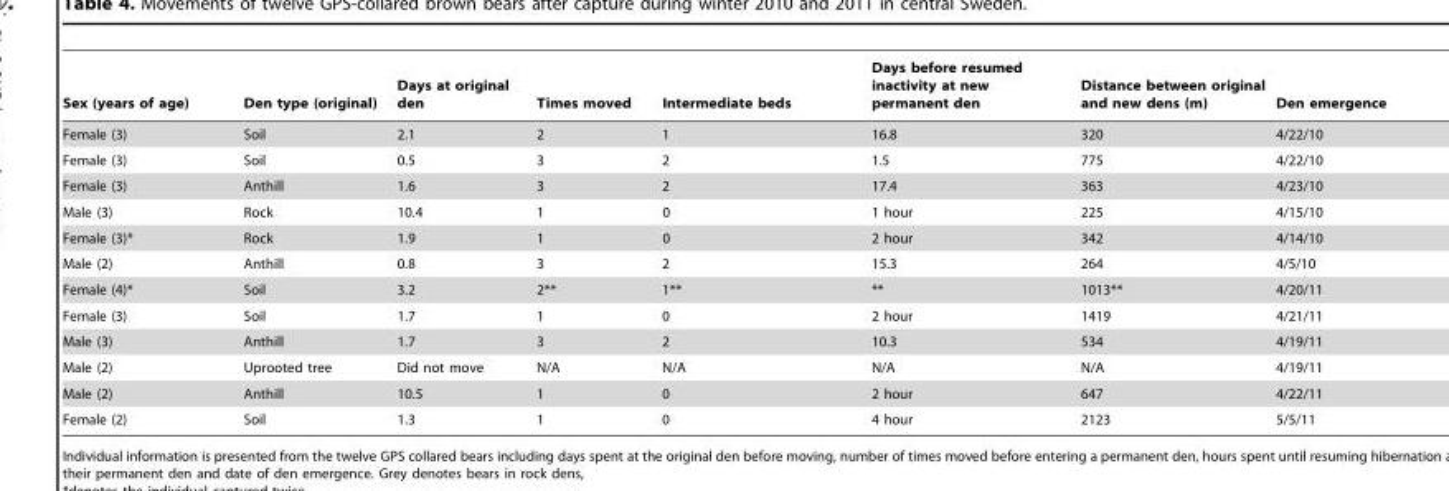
<table><thead><tr><td>Sex (years of age)</td><td>Den type (original)</td><td>Days at original den</td><td>Times moved</td><td>Intermediate beds</td><td>Days before resumed inactivity at new permanent den</td><td>Distance between original and new dens (m)</td><td>Den emergence</td></tr></thead><tbody><tr><td>Female (3)</td><td>Soil</td><td>2.1</td><td>2</td><td>1</td><td>16.8</td><td>320</td><td>4/22/10</td></tr><tr><td>Female (3)</td><td>Soil</td><td>0.5</td><td>3</td><td>2</td><td>1.5</td><td>775</td><td>4/22/10</td></tr><tr><td>Female (3)</td><td>Anthill</td><td>1.6</td><td>3</td><td>2</td><td>17.4</td><td>363</td><td>4/23/10</td></tr><tr><td>Male (3)</td><td>Rock</td><td>10.4</td><td>1</td><td>0</td><td>1 hour</td><td>225</td><td>4/15/10</td></tr><tr><td>Female (3)*</td><td>Rock</td><td>1.9</td><td>1</td><td>0</td><td>2 hour</td><td>342</td><td>4/14/10</td></tr><tr><td>Male (2)</td><td>Anthill</td><td>0.8</td><td>3</td><td>2</td><td>15.3</td><td>264</td><td>4/5/10</td></tr><tr><td>Female (4)*</td><td>Soil</td><td>3.2</td><td>2**</td><td>1**</td><td>**</td><td>1013**</td><td>4/20/11</td></tr><tr><td>Female (3)</td><td>Soil</td><td>1.7</td><td>1</td><td>0</td><td>2 hour</td><td>1419</td><td>4/21/11</td></tr><tr><td>Male (3)</td><td>Anthill</td><td>1.7</td><td>3</td><td>2</td><td>10.3</td><td>534</td><td>4/19/11</td></tr><tr><td>Male (2)</td><td>Uprooted tree</td><td>Did not move</td><td>N/A</td><td>N/A</td><td>N/A</td><td>N/A</td><td>4/19/11</td></tr><tr><td>Male (2)</td><td>Anthill</td><td>10.5</td><td>1</td><td>0</td><td>2 hour</td><td>647</td><td>4/22/11</td></tr><tr><td>Female (2)</td><td>Soil</td><td>1.3</td><td>1</td><td>0</td><td>4 hour</td><td>2123</td><td>5/5/11</td></tr></tbody></table>